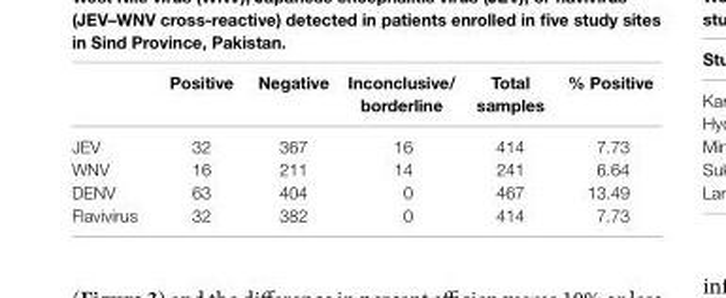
<table><thead><tr><td></td><td>Positive</td><td>negative</td><td>inconclusive/ borderline</td><td>Total samples</td><td>% Positive</td></tr></thead><tbody><tr><td>JEV</td><td>32</td><td>367</td><td>16</td><td>414</td><td>7.73</td></tr><tr><td>WNV</td><td>16</td><td>211</td><td>14</td><td>241</td><td>6.64</td></tr><tr><td>DENV</td><td>63</td><td>404</td><td>0</td><td>467</td><td>13.49</td></tr><tr><td>Flavivirus</td><td>32</td><td>382</td><td>0</td><td>414</td><td>7.73</td></tr></tbody></table>